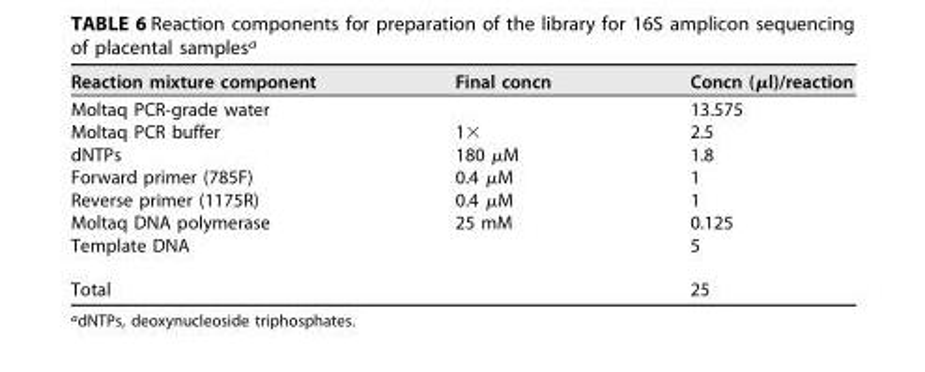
<table><thead><tr><td>Reaction mixture component</td><td>Final concn</td><td>Concn (μl)/reaction</td></tr></thead><tbody><tr><td>Moltaq PCR-grade water</td><td></td><td>13.575</td></tr><tr><td>Moltaq PCR buffer</td><td>1×</td><td>2.5</td></tr><tr><td>dNTPs</td><td>180 μM</td><td>1.8</td></tr><tr><td>Forward primer (785F)</td><td>0.4 μM</td><td>1</td></tr><tr><td>Reverse primer (1175R)</td><td>0.4 μM</td><td>1</td></tr><tr><td>Moltaq DNA polymerase</td><td>25 mM</td><td>0.125</td></tr><tr><td>Template DNA</td><td></td><td>5</td></tr><tr><td>Total</td><td></td><td>25</td></tr></tbody></table>